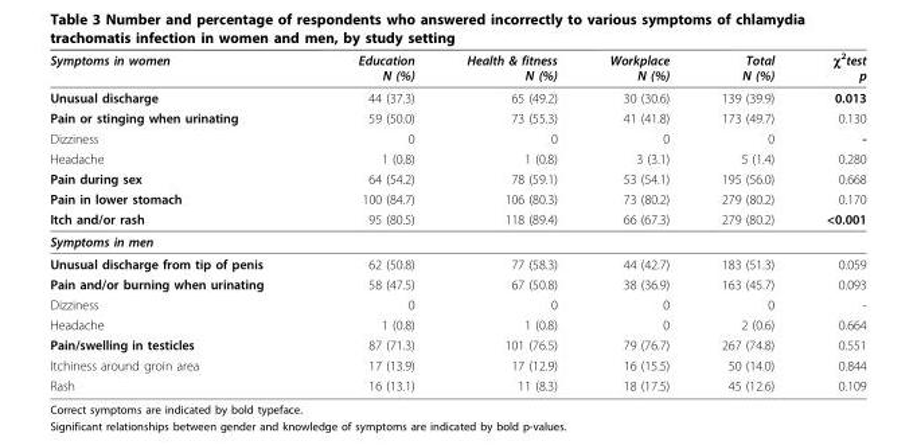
<table><thead><tr><td>Symptoms in women</td><td>Education N (%)</td><td>Health &amp; fitness N (%)</td><td>Workplace N (%)</td><td>Total N (%)</td><td>χ<sup>2</sup>test p</td></tr></thead><tbody><tr><td>Unusual discharge</td><td>44 (37.3)</td><td>65 (49.2)</td><td>30 (30.6)</td><td>139 (39.9)</td><td>0.013</td></tr><tr><td>Pain or stinging when urinating</td><td>59 (50.0)</td><td>73 (55.3)</td><td>41 (41.8)</td><td>173 (49.7)</td><td>0.130</td></tr><tr><td>Dizziness</td><td>0</td><td>0</td><td>0</td><td>0</td><td>-</td></tr><tr><td>Headache</td><td>1 (0.8)</td><td>1 (0.8)</td><td>3 (3.1)</td><td>5 (1.4)</td><td>0.280</td></tr><tr><td>Pain during sex</td><td>64 (54.2)</td><td>78 (59.1)</td><td>53 (54.1)</td><td>195 (56.0)</td><td>0.668</td></tr><tr><td>Pain in lower stomach</td><td>100 (84.7)</td><td>106 (80.3)</td><td>73 (80.2)</td><td>279 (80.2)</td><td>0.170</td></tr><tr><td>Itch and/or rash</td><td>95 (80.5)</td><td>118 (89.4)</td><td>66 (67.3)</td><td>279 (80.2)</td><td>&lt;0.001</td></tr><tr><td colspan="6">Symptoms in men</td></tr><tr><td>Unusual discharge from tip of penis</td><td>62 (50.8)</td><td>77 (58.3)</td><td>44 (42.7)</td><td>183 (51.3)</td><td>0.059</td></tr><tr><td>Pain and/or burning when urinating</td><td>58 (47.5)</td><td>67 (50.8)</td><td>38 (36.9)</td><td>163 (45.7)</td><td>0.093</td></tr><tr><td>Dizziness</td><td>0</td><td>0</td><td>0</td><td>0</td><td>-</td></tr><tr><td>Headache</td><td>1 (0.8)</td><td>1 (0.8)</td><td>0</td><td>2 (0.6)</td><td>0.664</td></tr><tr><td>Pain/swelling in testicles</td><td>87 (71.3)</td><td>101 (76.5)</td><td>79 (76.7)</td><td>267 (74.8)</td><td>0.551</td></tr><tr><td>Itchiness around groin area</td><td>17 (13.9)</td><td>17 (12.9)</td><td>16 (15.5)</td><td>50 (14.0)</td><td>0.844</td></tr><tr><td>Rash</td><td>16 (13.1)</td><td>11 (8.3)</td><td>18 (17.5)</td><td>45 (12.6)</td><td>0.109</td></tr></tbody></table>